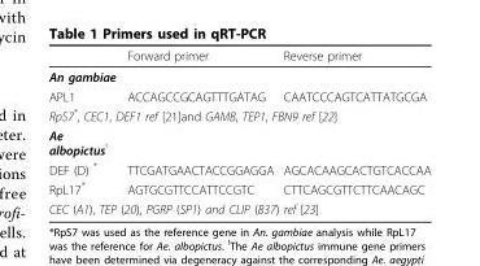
<table><thead><tr><td></td><td>Forward primer</td><td>Reverse primer</td></tr></thead><tbody><tr><td colspan="3">An gambiae</td></tr><tr><td>APL1</td><td>ACCAGCCGCAGTTTGATAG</td><td>CAATCCCAGTCATTATGCGA</td></tr><tr><td colspan="3">RpS7*, CEC1, DEF1 ref [21]and GAMB, TEP1, FBN9 ref [22]</td></tr><tr><td colspan="3">Ae albopictus<sup>!</sup></td></tr><tr><td>DEF (D) *</td><td>TTCGATGAACTACCGGAGGA</td><td>AGCACAAGCACTGTCACCAA</td></tr><tr><td>RpL17*</td><td>AGTGCGTTCCATTCCGTC</td><td>CTTCAGCGTTCTTCAACAGC</td></tr><tr><td colspan="3">CEC (A1), TEP (20), PGRP (SP1) and CLIP (B37) ref [23]</td></tr></tbody></table>